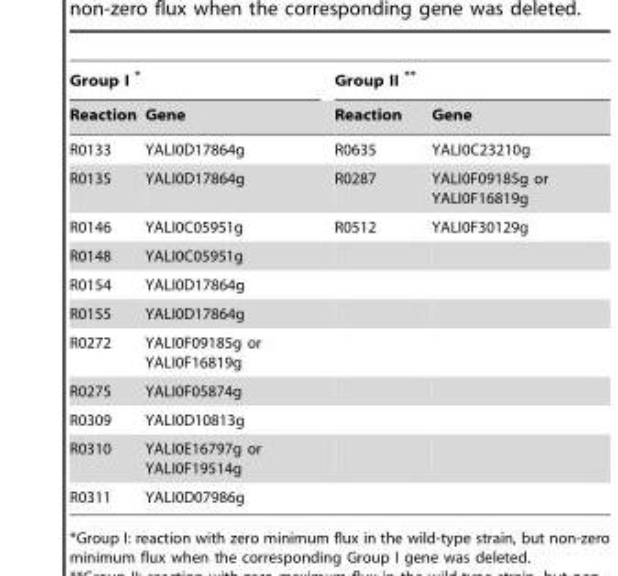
<table><thead><tr><td colspan="2">Group I *</td><td colspan="2">Group II **</td></tr><tr><td>Reaction</td><td>Gene</td><td>Reaction</td><td>Gene</td></tr></thead><tbody><tr><td>R0133</td><td>YALI0D17864g</td><td>R0635</td><td>YALI0C23210g</td></tr><tr><td>R0135</td><td>YALI0D17864g</td><td>R0287</td><td>YALI0F09185g or YALI0F16819g</td></tr><tr><td>R0146</td><td>YALI0C05951g</td><td>R0512</td><td>YALI0F30129g</td></tr><tr><td>R0148</td><td>YALI0C05951g</td><td></td><td></td></tr><tr><td>R0154</td><td>YALI0D17864g</td><td></td><td></td></tr><tr><td>R0155</td><td>YALI0D17864g</td><td></td><td></td></tr><tr><td>R0272</td><td>YALI0F09185g or YALI0F16819g</td><td></td><td></td></tr><tr><td>R0275</td><td>YALI0F05874g</td><td></td><td></td></tr><tr><td>R0309</td><td>YALI0D10813g</td><td></td><td></td></tr><tr><td>R0310</td><td>YALI0E16797g or YALI0F19514g</td><td></td><td></td></tr><tr><td>R0311</td><td>YALI0D07986g</td><td></td><td></td></tr></tbody></table>